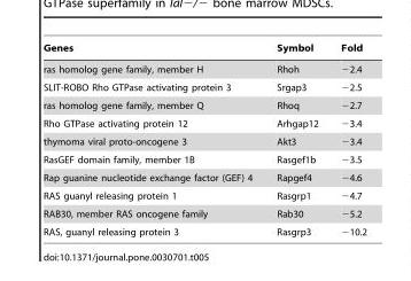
<table><thead><tr><td>Genes</td><td>Symbol</td><td>Fold</td></tr></thead><tbody><tr><td>ras homolog gene family, member H</td><td>Rhoh</td><td>−2.4</td></tr><tr><td>SLIT-ROBO Rho GTPase activating protein 3</td><td>Srgap3</td><td>−2.5</td></tr><tr><td>ras homolog gene family, member Q</td><td>Rhoq</td><td>−2.7</td></tr><tr><td>Rho GTPase activating protein 12</td><td>Arhgap12</td><td>−3.4</td></tr><tr><td>thymoma viral proto-oncogene 3</td><td>Akt3</td><td>−3.4</td></tr><tr><td>RasGEF domain family, member 1B</td><td>Rasgef1b</td><td>−3.5</td></tr><tr><td>Rap guanine nucleotide exchange factor (GEF) 4</td><td>Rapgef4</td><td>−4.6</td></tr><tr><td>RAS guanyl releasing protein 1</td><td>Rasgrp1</td><td>−4.7</td></tr><tr><td>RAB30, member RAS oncogene family</td><td>Rab30</td><td>−5.2</td></tr><tr><td>RAS, guanyl releasing protein 3</td><td>Rasgrp3</td><td>−10.2</td></tr></tbody></table>